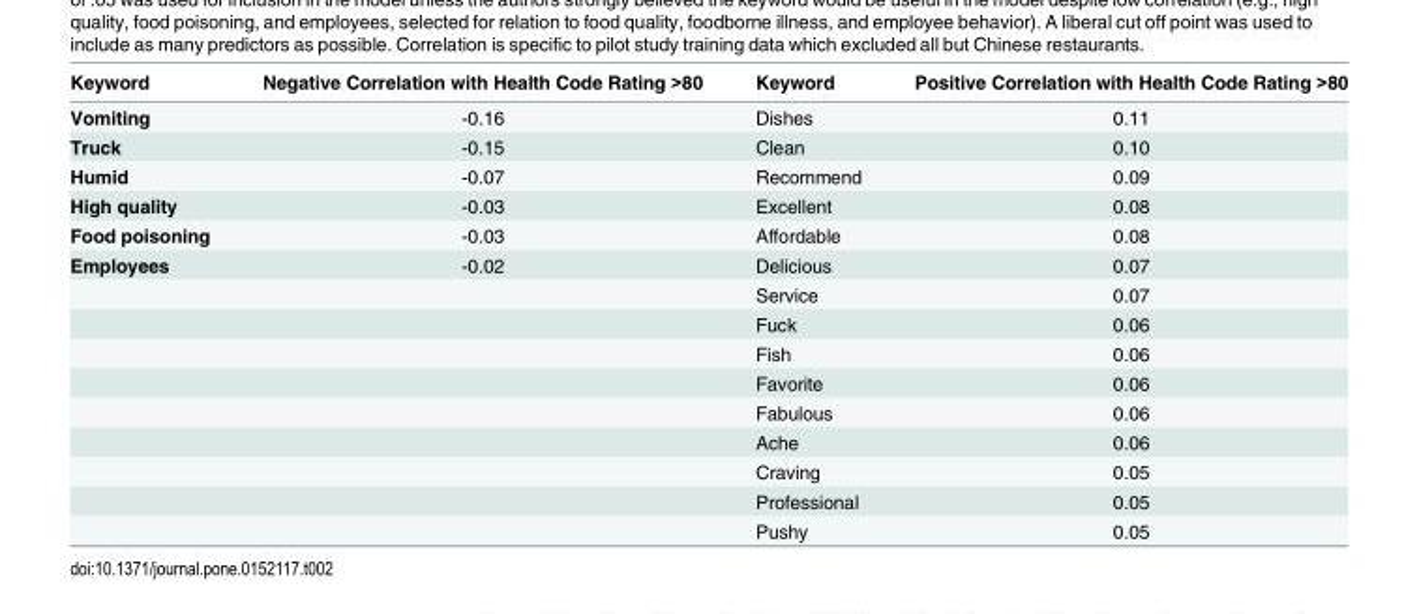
<table><thead><tr><td>Keyword</td><td>Negative Correlation with Health Code Rating &gt;80</td><td>Keyword</td><td>Positive Correlation with Health Code Rating &gt;80</td></tr></thead><tbody><tr><td>Vomiting</td><td>-0.16</td><td>Dishes</td><td>0.11</td></tr><tr><td>Truck</td><td>-0.15</td><td>Clean</td><td>0.10</td></tr><tr><td>Humid</td><td>-0.07</td><td>Recommend</td><td>0.09</td></tr><tr><td>High quality</td><td>-0.03</td><td>Excellent</td><td>0.08</td></tr><tr><td>Food poisoning</td><td>-0.03</td><td>Affordable</td><td>0.08</td></tr><tr><td rowspan="10">Employees</td><td>-0.02</td><td>Delicious</td><td>0.07</td></tr><tr><td></td><td>Service</td><td>0.07</td></tr><tr><td></td><td>Fuck</td><td>0.06</td></tr><tr><td></td><td>Fish</td><td>0.06</td></tr><tr><td></td><td>Favorite</td><td>0.06</td></tr><tr><td></td><td>Fabulous</td><td>0.06</td></tr><tr><td></td><td>Ache</td><td>0.06</td></tr><tr><td></td><td>Craving</td><td>0.05</td></tr><tr><td></td><td>Professional</td><td>0.05</td></tr><tr><td></td><td>Pushy</td><td>0.05</td></tr></tbody></table>